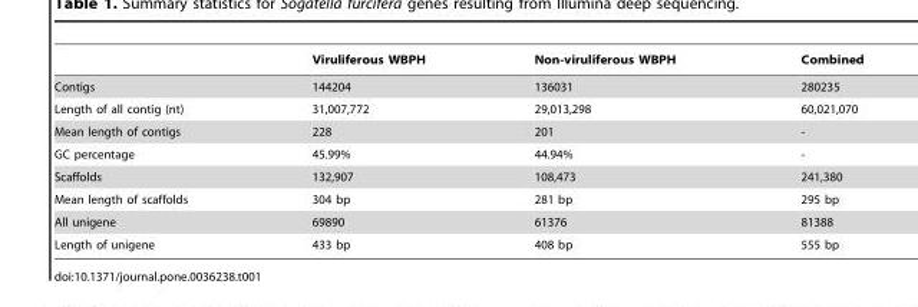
<table><thead><tr><td></td><td>Viruliferous WBPH</td><td>Non-viruliferous WBPH</td><td>Combined</td></tr></thead><tbody><tr><td>Contigs</td><td>144204</td><td>136031</td><td>280235</td></tr><tr><td>Length of all contig (nt)</td><td>31,007,772</td><td>29,013,298</td><td>60,021,070</td></tr><tr><td>Mean length of contigs</td><td>228</td><td>201</td><td>-</td></tr><tr><td>GC percentage</td><td>45.99%</td><td>44.94%</td><td>-</td></tr><tr><td>Scaffolds</td><td>132,907</td><td>108,473</td><td>241,380</td></tr><tr><td>Mean length of scaffolds</td><td>304 bp</td><td>281 bp</td><td>295 bp</td></tr><tr><td>All unigene</td><td>69890</td><td>61376</td><td>81388</td></tr><tr><td>Length of unigene</td><td>433 bp</td><td>408 bp</td><td>555 bp</td></tr></tbody></table>